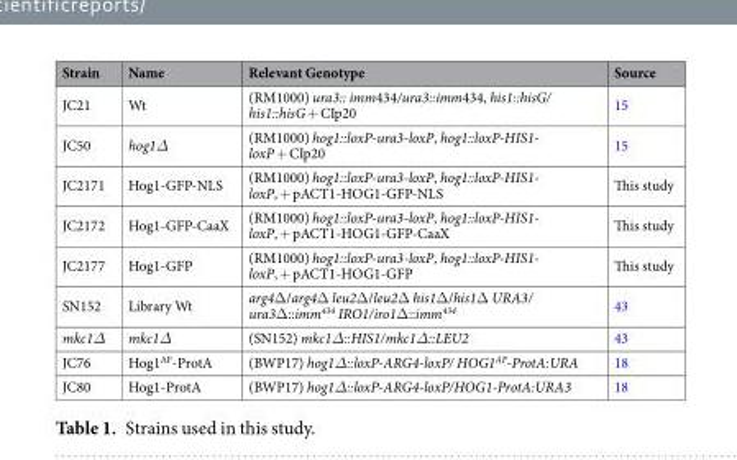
<table><thead><tr><td>Strain</td><td>Name</td><td>Relevant Genotype</td><td>Source</td></tr></thead><tbody><tr><td>JC21</td><td>Wt</td><td>(RM1000) ura3:: imm434/ura3::imm434, his1::hisG/ his1::hisG + CIp20</td><td>15</td></tr><tr><td>JC50</td><td>hog1Δ</td><td>(RM1000) hog1::loxP-ura3-loxP, hog1::loxP-HIS1- loxP + CIp20</td><td>15</td></tr><tr><td>JC2171</td><td>Hog1-GFP-NLS</td><td>(RM1000) hog1::loxP-ura3-loxP, hog1::loxP-HIS1- loxP, + pACT1-HOG1-GFP-NLS</td><td>This study</td></tr><tr><td>JC2172</td><td>Hog1-GFP-CaaX</td><td>(RM1000) hog1::loxP-ura3-loxP, hog1::loxP-HIS1- loxP, + pACT1-HOG1-GFP-CaaX</td><td>This study</td></tr><tr><td>JC2177</td><td>Hog1-GFP</td><td>(RM1000) hog1::loxP-ura3-loxP, hog1::loxP-HIS1- loxP, + pACT1-HOG1-GFP</td><td>This study</td></tr><tr><td>SN152</td><td>Library Wt</td><td>arg4Δ/arg4Δ leu2Δ/leu2Δ his1Δ/his1Δ URA3/ ura3Δ::imm<sup>434</sup> IRO1/iro1Δ::imm<sup>434</sup></td><td>43</td></tr><tr><td>mkc1Δ</td><td>mkc1Δ</td><td>(SN152) mkc1Δ::HIS1/mkc1Δ::LEU2</td><td>43</td></tr><tr><td>JC76</td><td>Hog1<sup>AF</sup>-ProtA</td><td>(BWP17) hog1Δ::loxP-ARG4-loxP/ HOG1<sup>AF</sup>-ProtA:URA</td><td>18</td></tr><tr><td>JC80</td><td>Hog1-ProtA</td><td>(BWP17) hog1Δ::loxP-ARG4-loxP/HOG1-ProtA:URA3</td><td>18</td></tr></tbody></table>